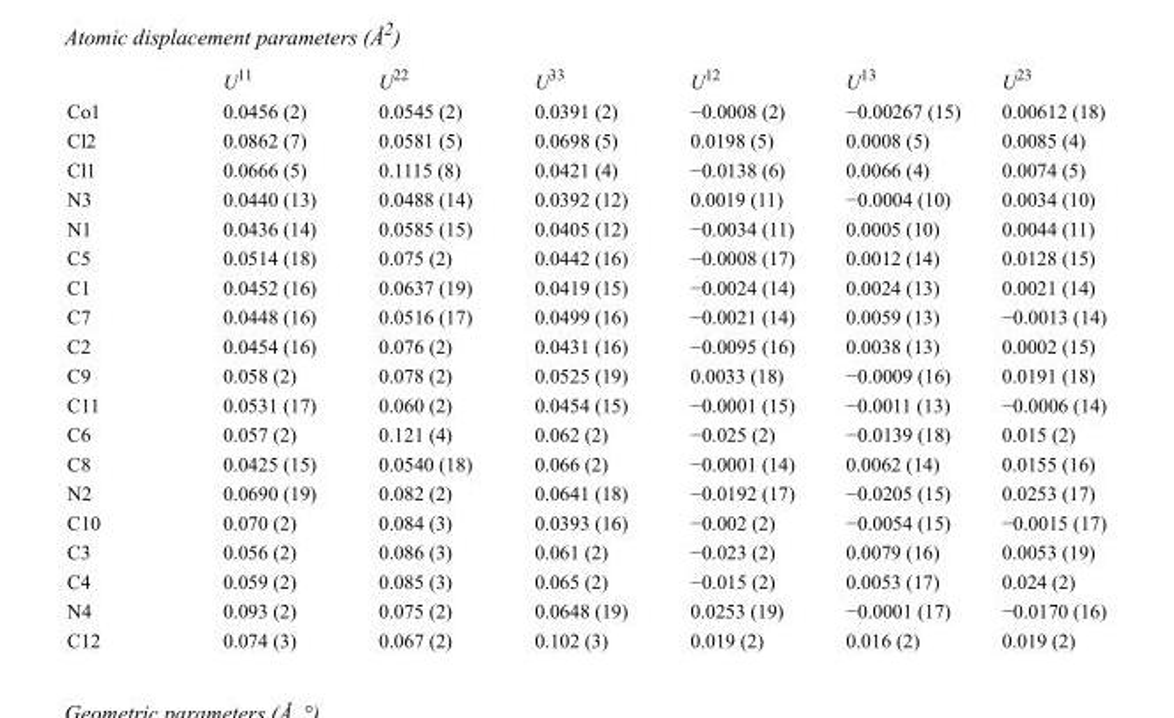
<table><thead><tr><td></td><td>U<sup>11</sup></td><td>U<sup>22</sup></td><td>U<sup>33</sup></td><td>U<sup>12</sup></td><td>U<sup>13</sup></td><td>U<sup>23</sup></td></tr></thead><tbody><tr><td>Co1</td><td>0.0456 (2)</td><td>0.0545 (2)</td><td>0.0391 (2)</td><td>−0.0008 (2)</td><td>−0.00267 (15)</td><td>0.00612 (18)</td></tr><tr><td>Cl2</td><td>0.0862 (7)</td><td>0.0581 (5)</td><td>0.0698 (5)</td><td>0.0198 (5)</td><td>0.0008 (5)</td><td>0.0085 (4)</td></tr><tr><td>Cl1</td><td>0.0666 (5)</td><td>0.1115 (8)</td><td>0.0421 (4)</td><td>−0.0138 (6)</td><td>0.0066 (4)</td><td>0.0074 (5)</td></tr><tr><td>N3</td><td>0.0440 (13)</td><td>0.0488 (14)</td><td>0.0392 (12)</td><td>0.0019 (11)</td><td>−0.0004 (10)</td><td>0.0034 (10)</td></tr><tr><td>N1</td><td>0.0436 (14)</td><td>0.0585 (15)</td><td>0.0405 (12)</td><td>−0.0034 (11)</td><td>0.0005 (10)</td><td>0.0044 (11)</td></tr><tr><td>C5</td><td>0.0514 (18)</td><td>0.075 (2)</td><td>0.0442 (16)</td><td>−0.0008 (17)</td><td>0.0012 (14)</td><td>0.0128 (15)</td></tr><tr><td>C1</td><td>0.0452 (16)</td><td>0.0637 (19)</td><td>0.0419 (15)</td><td>−0.0024 (14)</td><td>0.0024 (13)</td><td>0.0021 (14)</td></tr><tr><td>C7</td><td>0.0448 (16)</td><td>0.0516 (17)</td><td>0.0499 (16)</td><td>−0.0021 (14)</td><td>0.0059 (13)</td><td>−0.0013 (14)</td></tr><tr><td>C2</td><td>0.0454 (16)</td><td>0.076 (2)</td><td>0.0431 (16)</td><td>−0.0095 (16)</td><td>0.0038 (13)</td><td>0.0002 (15)</td></tr><tr><td>C9</td><td>0.058 (2)</td><td>0.078 (2)</td><td>0.0525 (19)</td><td>0.0033 (18)</td><td>−0.0009 (16)</td><td>0.0191 (18)</td></tr><tr><td>C11</td><td>0.0531 (17)</td><td>0.060 (2)</td><td>0.0454 (15)</td><td>−0.0001 (15)</td><td>−0.0011 (13)</td><td>−0.0006 (14)</td></tr><tr><td>C6</td><td>0.057 (2)</td><td>0.121 (4)</td><td>0.062 (2)</td><td>−0.025 (2)</td><td>−0.0139 (18)</td><td>0.015 (2)</td></tr><tr><td>C8</td><td>0.0425 (15)</td><td>0.0540 (18)</td><td>0.066 (2)</td><td>−0.0001 (14)</td><td>0.0062 (14)</td><td>0.0155 (16)</td></tr><tr><td>N2</td><td>0.0690 (19)</td><td>0.082 (2)</td><td>0.0641 (18)</td><td>−0.0192 (17)</td><td>−0.0205 (15)</td><td>0.0253 (17)</td></tr><tr><td>C10</td><td>0.070 (2)</td><td>0.084 (3)</td><td>0.0393 (16)</td><td>−0.002 (2)</td><td>−0.0054 (15)</td><td>−0.0015 (17)</td></tr><tr><td>C3</td><td>0.056 (2)</td><td>0.086 (3)</td><td>0.061 (2)</td><td>−0.023 (2)</td><td>0.0079 (16)</td><td>0.0053 (19)</td></tr><tr><td>C4</td><td>0.059 (2)</td><td>0.085 (3)</td><td>0.065 (2)</td><td>−0.015 (2)</td><td>0.0053 (17)</td><td>0.024 (2)</td></tr><tr><td>N4</td><td>0.093 (2)</td><td>0.075 (2)</td><td>0.0648 (19)</td><td>0.0253 (19)</td><td>−0.0001 (17)</td><td>−0.0170 (16)</td></tr><tr><td>C12</td><td>0.074 (3)</td><td>0.067 (2)</td><td>0.102 (3)</td><td>0.019 (2)</td><td>0.016 (2)</td><td>0.019 (2)</td></tr></tbody></table>